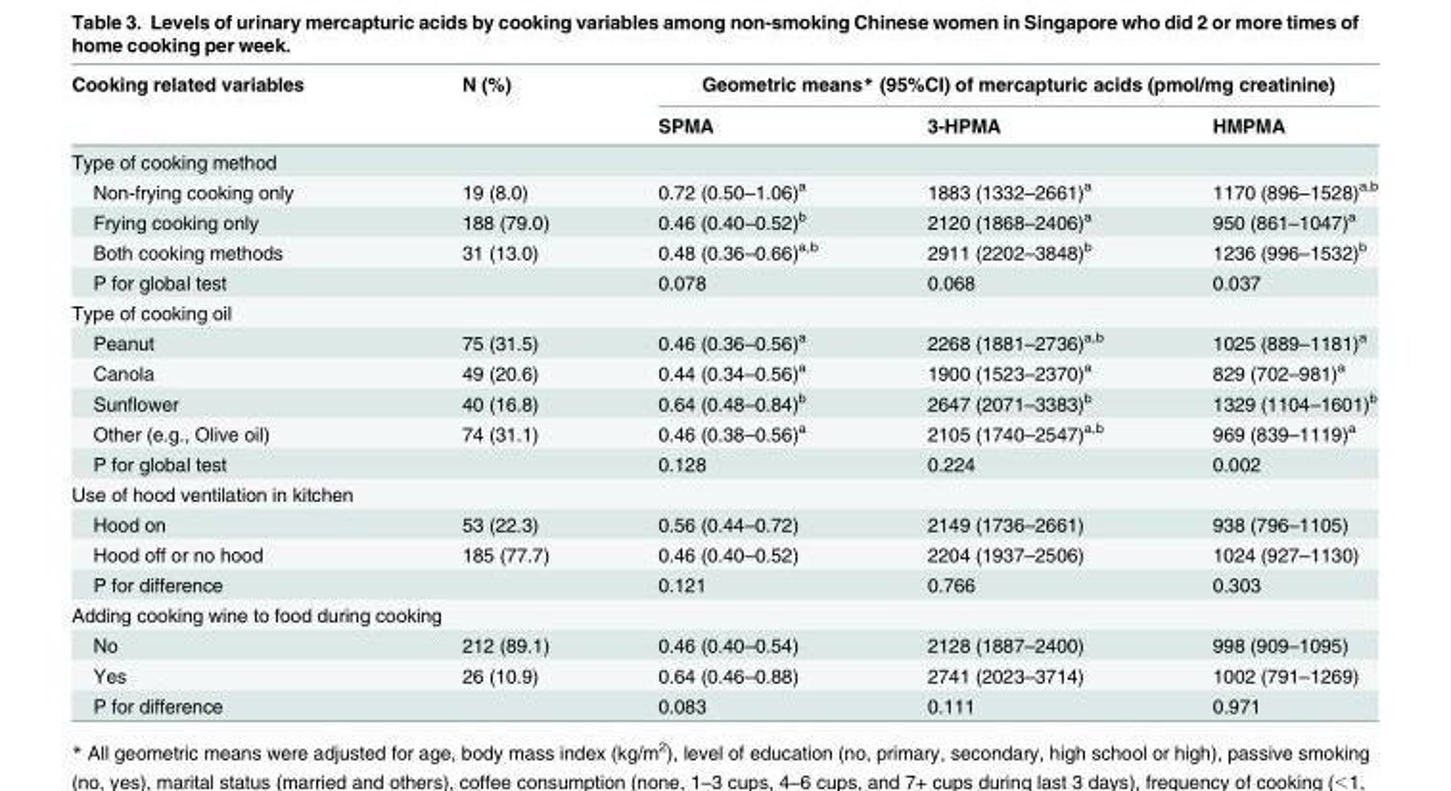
<table><thead><tr><td rowspan="2">Cooking related variables</td><td rowspan="2">N (%)</td><td colspan="3">Geometric means* (95%CI) of mercapturic acids (pmol/mg creatinine)</td></tr><tr><td>SPMA</td><td>3-HPMA</td><td>HMPMA</td></tr></thead><tbody><tr><td colspan="5">Type of cooking method</td></tr><tr><td>Non-frying cooking only</td><td>19 (8.0)</td><td>0.72 (0.50–1.06)<sup>a</sup></td><td>1883 (1332–2661)<sup>a</sup></td><td>1170 (896–1528)<sup>a,b</sup></td></tr><tr><td>Frying cooking only</td><td>188 (79.0)</td><td>0.46 (0.40–0.52)<sup>b</sup></td><td>2120 (1868–2406)<sup>a</sup></td><td>950 (861–1047)<sup>a</sup></td></tr><tr><td>Both cooking methods</td><td>31 (13.0)</td><td>0.48 (0.36–0.66)<sup>a,b</sup></td><td>2911 (2202–3848)<sup>b</sup></td><td>1236 (996–1532)<sup>b</sup></td></tr><tr><td>P for global test</td><td></td><td>0.078</td><td>0.068</td><td>0.037</td></tr><tr><td colspan="5">Type of cooking oil</td></tr><tr><td>Peanut</td><td>75 (31.5)</td><td>0.46 (0.36–0.56)<sup>a</sup></td><td>2268 (1881–2736)<sup>a,b</sup></td><td>1025 (889–1181)<sup>a</sup></td></tr><tr><td>Canola</td><td>49 (20.6)</td><td>0.44 (0.34–0.56)<sup>a</sup></td><td>1900 (1523–2370)<sup>a</sup></td><td>829 (702–981)<sup>a</sup></td></tr><tr><td>Sunflower</td><td>40 (16.8)</td><td>0.64 (0.48–0.84)<sup>b</sup></td><td>2647 (2071–3383)<sup>b</sup></td><td>1329 (1104–1601)<sup>b</sup></td></tr><tr><td>Other (e.g., Olive oil)</td><td>74 (31.1)</td><td>0.46 (0.38–0.56)<sup>a</sup></td><td>2105 (1740–2547)<sup>a,b</sup></td><td>969 (839–1119)<sup>a</sup></td></tr><tr><td>P for global test</td><td></td><td>0.128</td><td>0.224</td><td>0.002</td></tr><tr><td colspan="5">Use of hood ventilation in kitchen</td></tr><tr><td>Hood on</td><td>53 (22.3)</td><td>0.56 (0.44–0.72)</td><td>2149 (1736–2661)</td><td>938 (796–1105)</td></tr><tr><td>Hood off or no hood</td><td>185 (77.7)</td><td>0.46 (0.40–0.52)</td><td>2204 (1937–2506)</td><td>1024 (927–1130)</td></tr><tr><td>P for difference</td><td></td><td>0.121</td><td>0.766</td><td>0.303</td></tr><tr><td colspan="5">Adding cooking wine to food during cooking</td></tr><tr><td>No</td><td>212 (89.1)</td><td>0.46 (0.40–0.54)</td><td>2128 (1887–2400)</td><td>998 (909–1095)</td></tr><tr><td>Yes</td><td>26 (10.9)</td><td>0.64 (0.46–0.88)</td><td>2741 (2023–3714)</td><td>1002 (791–1269)</td></tr><tr><td>P for difference</td><td></td><td>0.083</td><td>0.111</td><td>0.971</td></tr></tbody></table>